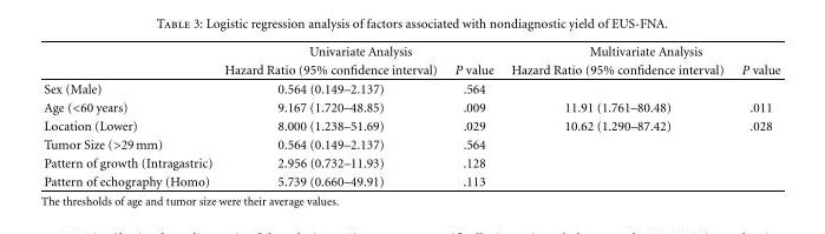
<table><thead><tr><td rowspan="2"></td><td colspan="2">Univariate Analysis</td><td colspan="2">Multivariate Analysis</td></tr><tr><td>Hazard Ratio (95% confidence interval)</td><td>P value</td><td>Hazard Ratio (95% confidence interval)</td><td>P value</td></tr></thead><tbody><tr><td>Sex (Male)</td><td>0.564 (0.149–2.137)</td><td>.564</td><td></td><td></td></tr><tr><td>Age (&lt;60 years)</td><td>9.167 (1.720–48.85)</td><td>.009</td><td>11.91 (1.761–80.48)</td><td>.011</td></tr><tr><td>Location (Lower)</td><td>8.000 (1.238–51.69)</td><td>.029</td><td>10.62 (1.290–87.42)</td><td>.028</td></tr><tr><td>Tumor Size (&gt;29mm)</td><td>0.564 (0.149–2.137)</td><td>.564</td><td></td><td></td></tr><tr><td>Pattern of growth (Intragastric)</td><td>2.956 (0.732–11.93)</td><td>.128</td><td></td><td></td></tr><tr><td>Pattern of echography (Homo)</td><td>5.739 (0.660–49.91)</td><td>.113</td><td></td><td></td></tr></tbody></table>